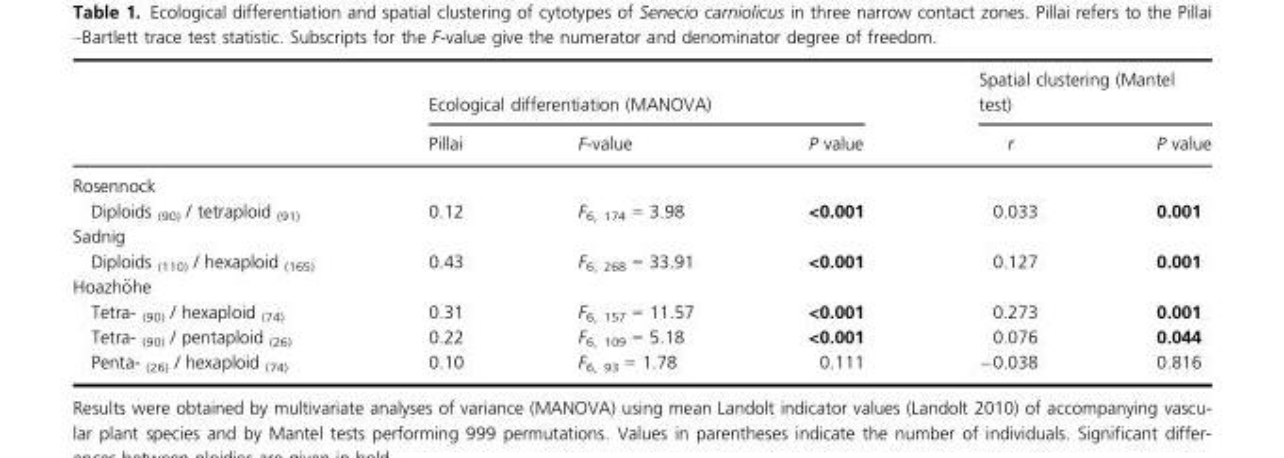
<table><thead><tr><td rowspan="2"></td><td colspan="3">Ecological differentiation (MANOVA)</td><td colspan="2">Spatial clustering (Mantel test)</td></tr><tr><td>Pillai</td><td>F-value</td><td>P value</td><td>r</td><td>P value</td></tr></thead><tbody><tr><td colspan="6">Rosennock</td></tr><tr><td>Diploids <sub>(90)</sub> / tetraploid <sub>(91)</sub></td><td>0.12</td><td>F<sub>6, 174</sub> = 3.98</td><td>&lt;0.001</td><td>0.033</td><td>0.001</td></tr><tr><td colspan="6">Sadnig</td></tr><tr><td>Diploids <sub>(110)</sub> / hexaploid <sub>(165)</sub></td><td>0.43</td><td>F<sub>6, 268</sub> = 33.91</td><td>&lt;0.001</td><td>0.127</td><td>0.001</td></tr><tr><td colspan="6">Hoazh€ohe</td></tr><tr><td>Tetra- <sub>(90)</sub> / hexaploid <sub>(74)</sub></td><td>0.31</td><td>F<sub>6, 157</sub> = 11.57</td><td>&lt;0.001</td><td>0.273</td><td>0.001</td></tr><tr><td>Tetra- <sub>(90)</sub> / pentaploid <sub>(26)</sub></td><td>0.22</td><td>F<sub>6, 109</sub> = 5.18</td><td>&lt;0.001</td><td>0.076</td><td>0.044</td></tr><tr><td>Penta- <sub>(26)</sub> / hexaploid <sub>(74)</sub></td><td>0.10</td><td>F<sub>6, 93</sub> = 1.78</td><td>0.111</td><td>−0.038</td><td>0.816</td></tr></tbody></table>